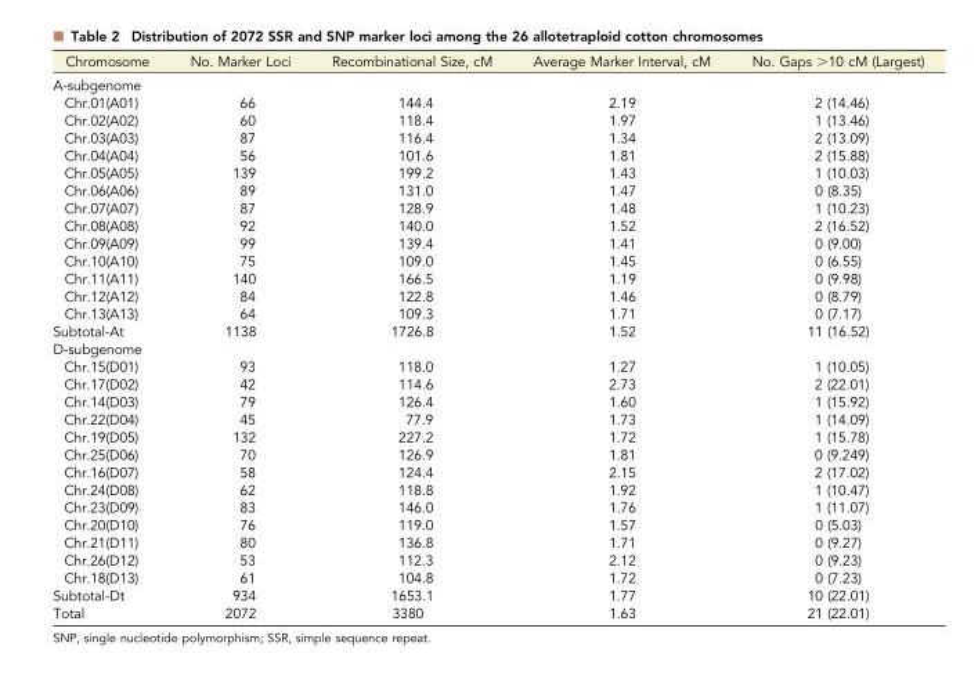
<table><thead><tr><td>Chromosome</td><td>No. Marker Loci</td><td>Recombinational Size, cM</td><td>Average Marker Interval, cM</td><td>No. Gaps &gt;10 cM (Largest)</td></tr></thead><tbody><tr><td colspan="5">A-subgenome</td></tr><tr><td>Chr.01(A01)</td><td>66</td><td>144.4</td><td>2.19</td><td>2 (14.46)</td></tr><tr><td>Chr.02(A02)</td><td>60</td><td>118.4</td><td>1.97</td><td>1 (13.46)</td></tr><tr><td>Chr.03(A03)</td><td>87</td><td>116.4</td><td>1.34</td><td>2 (13.09)</td></tr><tr><td>Chr.04(A04)</td><td>56</td><td>101.6</td><td>1.81</td><td>2 (15.88)</td></tr><tr><td>Chr.05(A05)</td><td>139</td><td>199.2</td><td>1.43</td><td>1 (10.03)</td></tr><tr><td>Chr.06(A06)</td><td>89</td><td>131.0</td><td>1.47</td><td>0 (8.35)</td></tr><tr><td>Chr.07(A07)</td><td>87</td><td>128.9</td><td>1.48</td><td>1 (10.23)</td></tr><tr><td>Chr.08(A08)</td><td>92</td><td>140.0</td><td>1.52</td><td>2 (16.52)</td></tr><tr><td>Chr.09(A09)</td><td>99</td><td>139.4</td><td>1.41</td><td>0 (9.00)</td></tr><tr><td>Chr.10(A10)</td><td>75</td><td>109.0</td><td>1.45</td><td>0 (6.55)</td></tr><tr><td>Chr.11(A11)</td><td>140</td><td>166.5</td><td>1.19</td><td>0 (9.98)</td></tr><tr><td>Chr.12(A12)</td><td>84</td><td>122.8</td><td>1.46</td><td>0 (8.79)</td></tr><tr><td>Chr.13(A13)</td><td>64</td><td>109.3</td><td>1.71</td><td>0 (7.17)</td></tr><tr><td>Subtotal-At</td><td>1138</td><td>1726.8</td><td>1.52</td><td>11 (16.52)</td></tr><tr><td colspan="5">D-subgenome</td></tr><tr><td>Chr.15(D01)</td><td>93</td><td>118.0</td><td>1.27</td><td>1 (10.05)</td></tr><tr><td>Chr.17(D02)</td><td>42</td><td>114.6</td><td>2.73</td><td>2 (22.01)</td></tr><tr><td>Chr.14(D03)</td><td>79</td><td>126.4</td><td>1.60</td><td>1 (15.92)</td></tr><tr><td>Chr.22(D04)</td><td>45</td><td>77.9</td><td>1.73</td><td>1 (14.09)</td></tr><tr><td>Chr.19(D05)</td><td>132</td><td>227.2</td><td>1.72</td><td>1 (15.78)</td></tr><tr><td>Chr.25(D06)</td><td>70</td><td>126.9</td><td>1.81</td><td>0 (9.249)</td></tr><tr><td>Chr.16(D07)</td><td>58</td><td>124.4</td><td>2.15</td><td>2 (17.02)</td></tr><tr><td>Chr.24(D08)</td><td>62</td><td>118.8</td><td>1.92</td><td>1 (10.47)</td></tr><tr><td>Chr.23(D09)</td><td>83</td><td>146.0</td><td>1.76</td><td>1 (11.07)</td></tr><tr><td>Chr.20(D10)</td><td>76</td><td>119.0</td><td>1.57</td><td>0 (5.03)</td></tr><tr><td>Chr.21(D11)</td><td>80</td><td>136.8</td><td>1.71</td><td>0 (9.27)</td></tr><tr><td>Chr.26(D12)</td><td>53</td><td>112.3</td><td>2.12</td><td>0 (9.23)</td></tr><tr><td>Chr.18(D13)</td><td>61</td><td>104.8</td><td>1.72</td><td>0 (7.23)</td></tr><tr><td>Subtotal-Dt</td><td>934</td><td>1653.1</td><td>1.77</td><td>10 (22.01)</td></tr><tr><td>Total</td><td>2072</td><td>3380</td><td>1.63</td><td>21 (22.01)</td></tr></tbody></table>